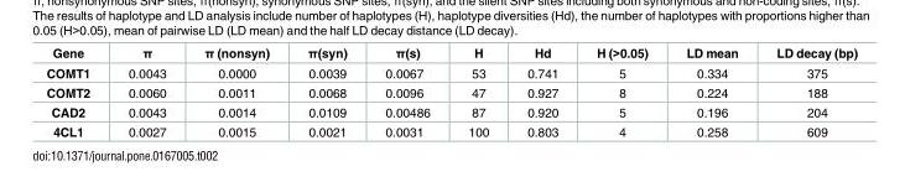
<table><thead><tr><td>Gene</td><td>π</td><td>π (nonsyn)</td><td>π(syn)</td><td>π(s)</td><td>H</td><td>Hd</td><td>H (&gt;0.05)</td><td>LD mean</td><td>LD decay (bp)</td></tr></thead><tbody><tr><td>COMT1</td><td>0.0043</td><td>0.0000</td><td>0.0039</td><td>0.0067</td><td>53</td><td>0.741</td><td>5</td><td>0.334</td><td>375</td></tr><tr><td>COMT2</td><td>0.0060</td><td>0.0011</td><td>0.0068</td><td>0.0096</td><td>47</td><td>0.927</td><td>8</td><td>0.224</td><td>188</td></tr><tr><td>CAD2</td><td>0.0043</td><td>0.0014</td><td>0.0109</td><td>0.00486</td><td>87</td><td>0.920</td><td>5</td><td>0.196</td><td>204</td></tr><tr><td>4CL1</td><td>0.0027</td><td>0.0015</td><td>0.0021</td><td>0.0031</td><td>100</td><td>0.803</td><td>4</td><td>0.258</td><td>609</td></tr></tbody></table>